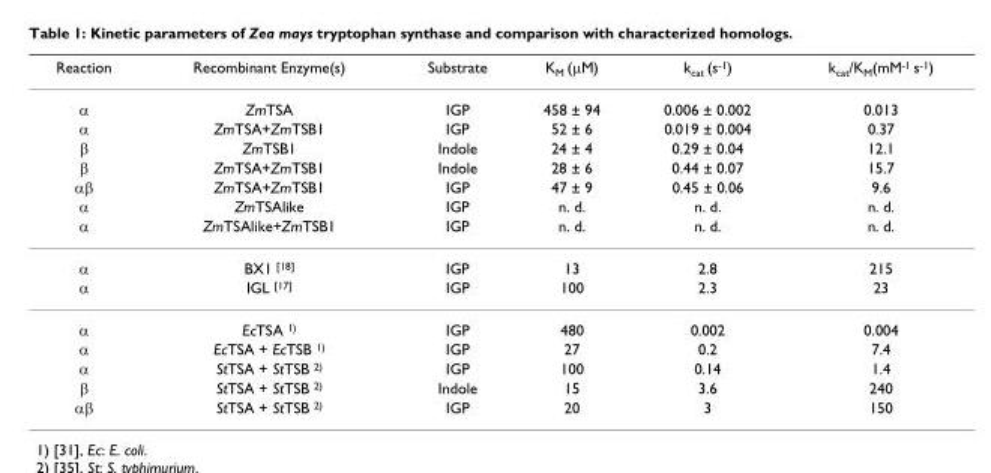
<table><thead><tr><td>Reaction</td><td>Recombinant Enzyme(s)</td><td>Substrate</td><td>K<sub>M</sub> (µM)</td><td>k<sub>cat</sub> (s<sup>-1</sup>)</td><td>k<sub>cat</sub>/K<sub>M</sub>(mM<sup>-1</sup> s<sup>-1</sup>)</td></tr></thead><tbody><tr><td>α</td><td>ZmTSA</td><td>IGP</td><td>458 ± 94</td><td>0.006 ± 0.002</td><td>0.013</td></tr><tr><td>α</td><td>ZmTSA+ZmTSB1</td><td>IGP</td><td>52 ± 6</td><td>0.019 ± 0.004</td><td>0.37</td></tr><tr><td>β</td><td>ZmTSB1</td><td>Indole</td><td>24 ± 4</td><td>0.29 ± 0.04</td><td>12.1</td></tr><tr><td>β</td><td>ZmTSA+ZmTSB1</td><td>Indole</td><td>28 ± 6</td><td>0.44 ± 0.07</td><td>15.7</td></tr><tr><td>αβ</td><td>ZmTSA+ZmTSB1</td><td>IGP</td><td>47 ± 9</td><td>0.45 ± 0.06</td><td>9.6</td></tr><tr><td>α</td><td>ZmTSAlike</td><td>IGP</td><td>n. d.</td><td>n. d.</td><td>n. d.</td></tr><tr><td>α</td><td>ZmTSAlike+ZmTSB1</td><td>IGP</td><td>n. d.</td><td>n. d.</td><td>n. d.</td></tr><tr><td>α</td><td>BX1 <sup>[18]</sup></td><td>IGP</td><td>13</td><td>2.8</td><td>215</td></tr><tr><td>α</td><td>IGL <sup>[17]</sup></td><td>IGP</td><td>100</td><td>2.3</td><td>23</td></tr><tr><td>α</td><td>EcTSA <sup>1)</sup></td><td>IGP</td><td>480</td><td>0.002</td><td>0.004</td></tr><tr><td>α</td><td>EcTSA + EcTSB <sup>1)</sup></td><td>IGP</td><td>27</td><td>0.2</td><td>7.4</td></tr><tr><td>α</td><td>StTSA + StTSB <sup>2)</sup></td><td>IGP</td><td>100</td><td>0.14</td><td>1.4</td></tr><tr><td>β</td><td>StTSA + StTSB <sup>2)</sup></td><td>Indole</td><td>15</td><td>3.6</td><td>240</td></tr><tr><td>αβ</td><td>StTSA + StTSB <sup>2)</sup></td><td>IGP</td><td>20</td><td>3</td><td>150</td></tr></tbody></table>